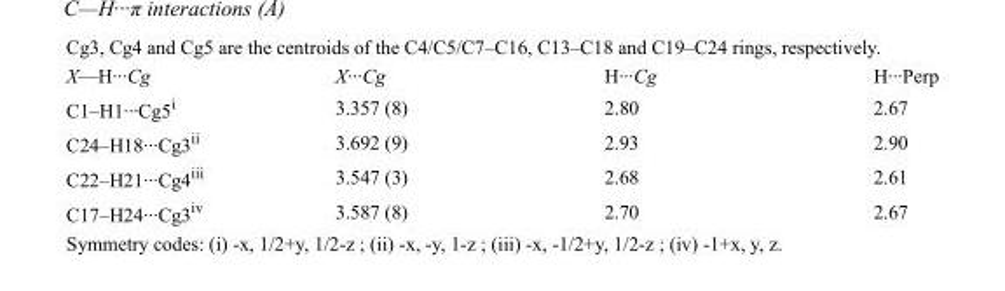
<table><tbody><tr><td>X—H···Cg</td><td>X···Cg</td><td>H···Cg</td><td>H···Perp</td></tr><tr><td>C1–H1···Cg5<sup>i</sup></td><td>3.357 (8)</td><td>2.80</td><td>2.67</td></tr><tr><td>C24–H18···Cg3<sup>ii</sup></td><td>3.692 (9)</td><td>2.93</td><td>2.90</td></tr><tr><td>C22–H21···Cg4<sup>iii</sup></td><td>3.547 (3)</td><td>2.68</td><td>2.61</td></tr><tr><td>C17–H24···Cg3<sup>iv</sup></td><td>3.587 (8)</td><td>2.70</td><td>2.67</td></tr></tbody></table>